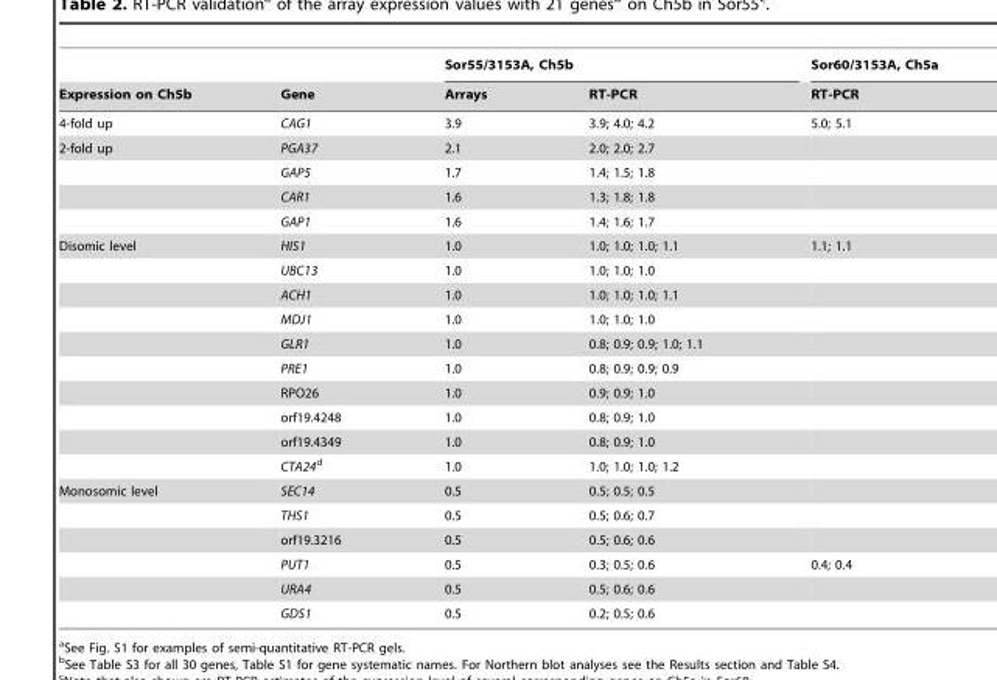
<table><thead><tr><td rowspan="2">Expression on Ch5b</td><td rowspan="2">Gene</td><td colspan="2">Sor55/3153A, Ch5b</td><td rowspan="2">Sor60/3153A, Ch5a RT-PCR</td></tr><tr><td>Arrays</td><td>RT-PCR</td></tr></thead><tbody><tr><td>4-fold up</td><td>CAG1</td><td>3.9</td><td>3.9; 4.0; 4.2</td><td>5.0; 5.1</td></tr><tr><td rowspan="4">2-fold up</td><td>PGA37</td><td>2.1</td><td>2.0; 2.0; 2.7</td><td></td></tr><tr><td>GAP5</td><td>1.7</td><td>1.4; 1.5; 1.8</td><td></td></tr><tr><td>CAR1</td><td>1.6</td><td>1.3; 1.8; 1.8</td><td></td></tr><tr><td>GAP1</td><td>1.6</td><td>1.4; 1.6; 1.7</td><td></td></tr><tr><td rowspan="10">Disomic level</td><td>HIS1</td><td>1.0</td><td>1.0; 1.0; 1.0; 1.1</td><td>1.1; 1.1</td></tr><tr><td>UBC13</td><td>1.0</td><td>1.0; 1.0; 1.0</td><td></td></tr><tr><td>ACH1</td><td>1.0</td><td>1.0; 1.0; 1.0; 1.1</td><td></td></tr><tr><td>MDJ1</td><td>1.0</td><td>1.0; 1.0; 1.0</td><td></td></tr><tr><td>GLR1</td><td>1.0</td><td>0.8; 0.9; 0.9; 1.0; 1.1</td><td></td></tr><tr><td>PRE1</td><td>1.0</td><td>0.8; 0.9; 0.9; 0.9</td><td></td></tr><tr><td>RPO26</td><td>1.0</td><td>0.9; 0.9; 1.0</td><td></td></tr><tr><td>orf19.4248</td><td>1.0</td><td>0.8; 0.9; 1.0</td><td></td></tr><tr><td>orf19.4349</td><td>1.0</td><td>0.8; 0.9; 1.0</td><td></td></tr><tr><td>CTA24d</td><td>1.0</td><td>1.0; 1.0; 1.0; 1.2</td><td></td></tr><tr><td rowspan="6">Monosomic level</td><td>SEC14</td><td>0.5</td><td>0.5; 0.5; 0.5</td><td></td></tr><tr><td>THS1</td><td>0.5</td><td>0.5; 0.6; 0.7</td><td></td></tr><tr><td>orf19.3216</td><td>0.5</td><td>0.5; 0.6; 0.6</td><td></td></tr><tr><td>PUT1</td><td>0.5</td><td>0.3; 0.5; 0.6</td><td>0.4; 0.4</td></tr><tr><td>URA4</td><td>0.5</td><td>0.5; 0.6; 0.6</td><td></td></tr><tr><td>GDS1</td><td>0.5</td><td>0.2; 0.5; 0.6</td><td></td></tr></tbody></table>